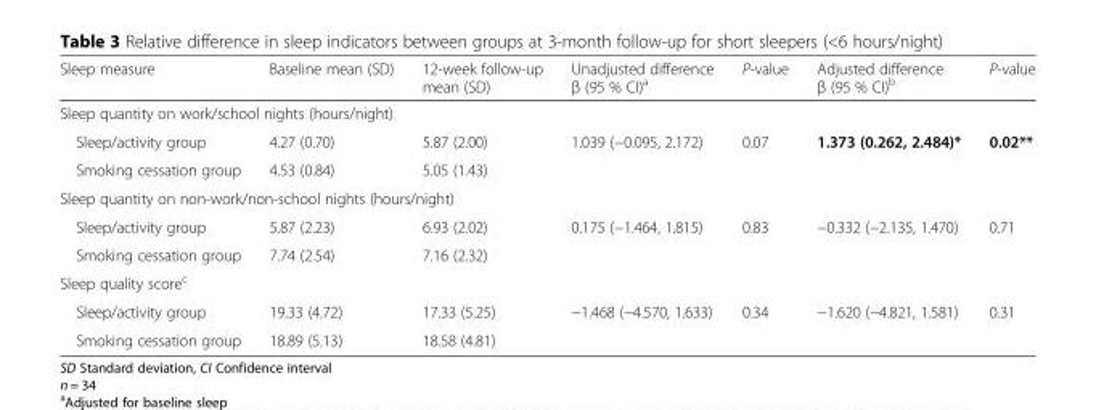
<table><thead><tr><td>Sleep measure</td><td>Baseline mean (SD)</td><td>12-week follow-up mean (SD)</td><td>Unadjusted difference β (95 % CI)<sup>a</sup></td><td>P-value</td><td>Adjusted difference β (95 % CI)<sup>b</sup></td><td>P-value</td></tr></thead><tbody><tr><td colspan="7">Sleep quantity on work/school nights (hours/night)</td></tr><tr><td>Sleep/activity group</td><td>4.27 (0.70)</td><td>5.87 (2.00)</td><td rowspan="2">1.039 (−0.095, 2.172)</td><td rowspan="2">0.07</td><td rowspan="2">1.373 (0.262, 2.484)*</td><td rowspan="2">0.02**</td></tr><tr><td>Smoking cessation group</td><td>4.53 (0.84)</td><td>5.05 (1.43)</td></tr><tr><td colspan="7">Sleep quantity on non-work/non-school nights (hours/night)</td></tr><tr><td>Sleep/activity group</td><td>5.87 (2.23)</td><td>6.93 (2.02)</td><td rowspan="2">0.175 (−1.464, 1.815)</td><td rowspan="2">0.83</td><td rowspan="2">−0.332 (−2.135, 1.470)</td><td rowspan="2">0.71</td></tr><tr><td>Smoking cessation group</td><td>7.74 (2.54)</td><td>7.16 (2.32)</td></tr><tr><td colspan="7">Sleep quality score<sup>c</sup></td></tr><tr><td>Sleep/activity group</td><td>19.33 (4.72)</td><td>17.33 (5.25)</td><td rowspan="2">−1.468 (−4.570, 1.633)</td><td rowspan="2">0.34</td><td rowspan="2">−1.620 (−4.821, 1.581)</td><td rowspan="2">0.31</td></tr><tr><td>Smoking cessation group</td><td>18.89 (5.13)</td><td>18.58 (4.81)</td></tr></tbody></table>